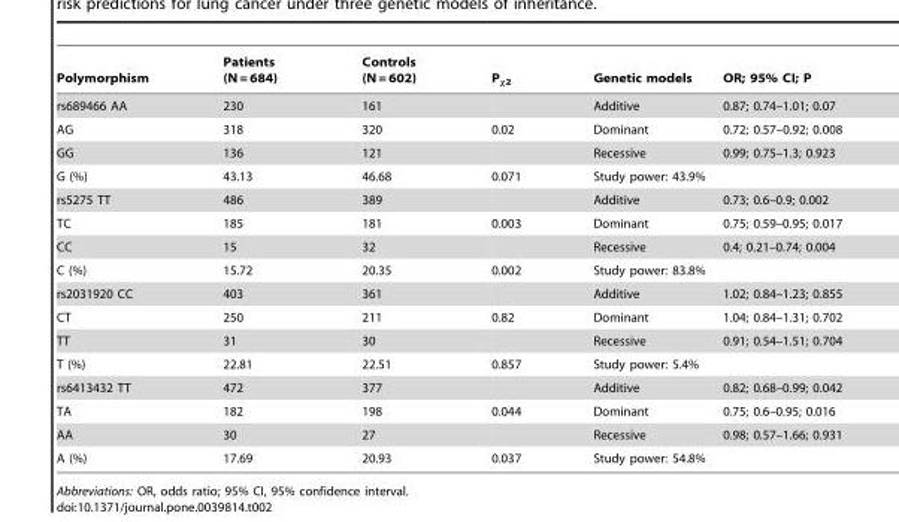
<table><thead><tr><td>Polymorphism</td><td>Patients (N = 684)</td><td>Controls (N = 602)</td><td>P<sub>χ2</sub></td><td>Genetic models</td><td>OR; 95% CI; P</td></tr></thead><tbody><tr><td>rs689466 AA</td><td>230</td><td>161</td><td></td><td>Additive</td><td>0.87; 0.74–1.01; 0.07</td></tr><tr><td>AG</td><td>318</td><td>320</td><td>0.02</td><td>Dominant</td><td>0.72; 0.57–0.92; 0.008</td></tr><tr><td>GG</td><td>136</td><td>121</td><td></td><td>Recessive</td><td>0.99; 0.75–1.3; 0.923</td></tr><tr><td>G (%)</td><td>43.13</td><td>46.68</td><td>0.071</td><td colspan="2">Study power: 43.9%</td></tr><tr><td>rs5275 TT</td><td>486</td><td>389</td><td></td><td>Additive</td><td>0.73; 0.6–0.9; 0.002</td></tr><tr><td>TC</td><td>185</td><td>181</td><td>0.003</td><td>Dominant</td><td>0.75; 0.59–0.95; 0.017</td></tr><tr><td>CC</td><td>15</td><td>32</td><td></td><td>Recessive</td><td>0.4; 0.21–0.74; 0.004</td></tr><tr><td>C (%)</td><td>15.72</td><td>20.35</td><td>0.002</td><td colspan="2">Study power: 83.8%</td></tr><tr><td>rs2031920 CC</td><td>403</td><td>361</td><td></td><td>Additive</td><td>1.02; 0.84–1.23; 0.855</td></tr><tr><td>CT</td><td>250</td><td>211</td><td>0.82</td><td>Dominant</td><td>1.04; 0.84–1.31; 0.702</td></tr><tr><td>TT</td><td>31</td><td>30</td><td></td><td>Recessive</td><td>0.91; 0.54–1.51; 0.704</td></tr><tr><td>T (%)</td><td>22.81</td><td>22.51</td><td>0.857</td><td colspan="2">Study power: 5.4%</td></tr><tr><td>rs6413432 TT</td><td>472</td><td>377</td><td></td><td>Additive</td><td>0.82; 0.68–0.99; 0.042</td></tr><tr><td>TA</td><td>182</td><td>198</td><td>0.044</td><td>Dominant</td><td>0.75; 0.6–0.95; 0.016</td></tr><tr><td>AA</td><td>30</td><td>27</td><td></td><td>Recessive</td><td>0.98; 0.57–1.66; 0.931</td></tr><tr><td>A (%)</td><td>17.69</td><td>20.93</td><td>0.037</td><td colspan="2">Study power: 54.8%</td></tr></tbody></table>